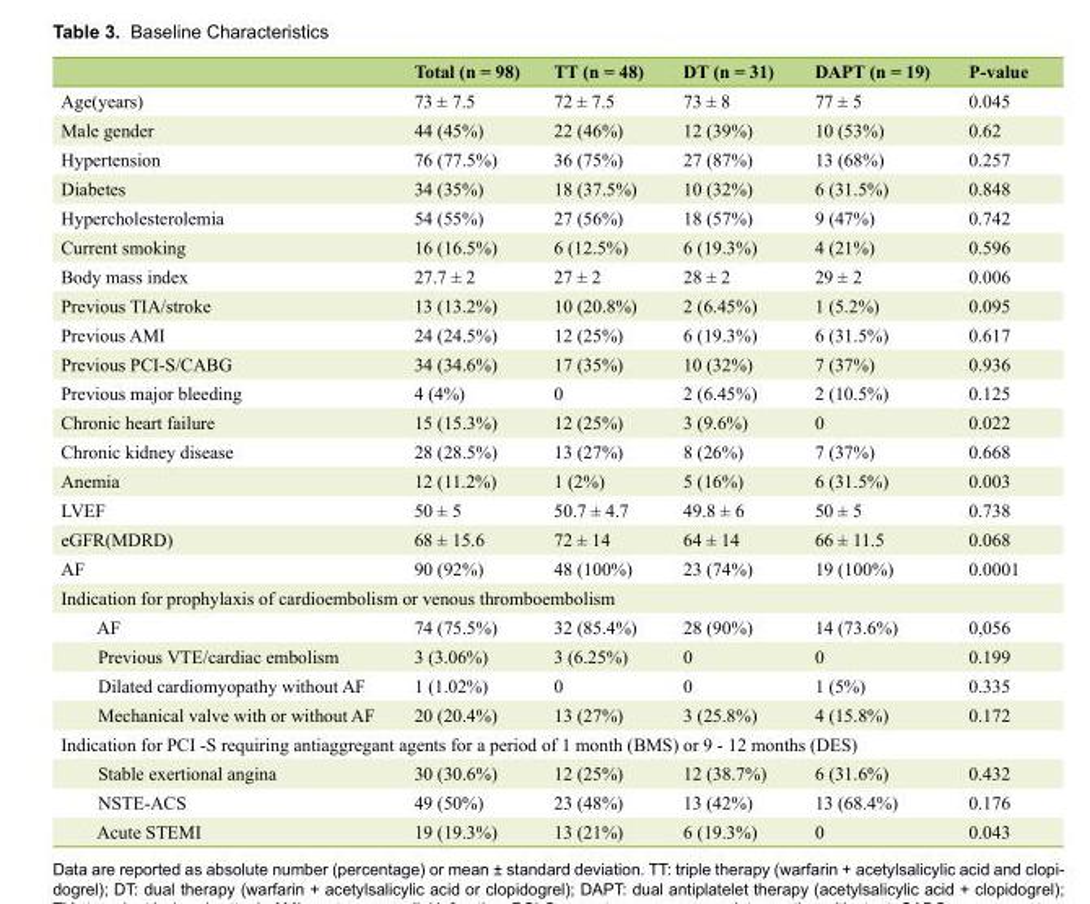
<table><thead><tr><td></td><td>Total (n = 98)</td><td>TT (n = 48)</td><td>DT (n = 31)</td><td>DAPT (n = 19)</td><td>P-value</td></tr></thead><tbody><tr><td>Age(years)</td><td>73 ± 7.5</td><td>72 ± 7.5</td><td>73 ± 8</td><td>77 ± 5</td><td>0.045</td></tr><tr><td>Male gender</td><td>44 (45%)</td><td>22 (46%)</td><td>12 (39%)</td><td>10 (53%)</td><td>0.62</td></tr><tr><td>Hypertension</td><td>76 (77.5%)</td><td>36 (75%)</td><td>27 (87%)</td><td>13 (68%)</td><td>0.257</td></tr><tr><td>Diabetes</td><td>34 (35%)</td><td>18 (37.5%)</td><td>10 (32%)</td><td>6 (31.5%)</td><td>0.848</td></tr><tr><td>Hypercholesterolemia</td><td>54 (55%)</td><td>27 (56%)</td><td>18 (57%)</td><td>9 (47%)</td><td>0.742</td></tr><tr><td>Current smoking</td><td>16 (16.5%)</td><td>6 (12.5%)</td><td>6 (19.3%)</td><td>4 (21%)</td><td>0.596</td></tr><tr><td>Body mass index</td><td>27.7 ± 2</td><td>27 ± 2</td><td>28 ± 2</td><td>29 ± 2</td><td>0.006</td></tr><tr><td>Previous TIA/stroke</td><td>13 (13.2%)</td><td>10 (20.8%)</td><td>2 (6.45%)</td><td>1 (5.2%)</td><td>0.095</td></tr><tr><td>Previous AMI</td><td>24 (24.5%)</td><td>12 (25%)</td><td>6 (19.3%)</td><td>6 (31.5%)</td><td>0.617</td></tr><tr><td>Previous PCI-S/CABG</td><td>34 (34.6%)</td><td>17 (35%)</td><td>10 (32%)</td><td>7 (37%)</td><td>0.936</td></tr><tr><td>Previous major bleeding</td><td>4 (4%)</td><td>0</td><td>2 (6.45%)</td><td>2 (10.5%)</td><td>0.125</td></tr><tr><td>Chronic heart failure</td><td>15 (15.3%)</td><td>12 (25%)</td><td>3 (9.6%)</td><td>0</td><td>0.022</td></tr><tr><td>Chronic kidney disease</td><td>28 (28.5%)</td><td>13 (27%)</td><td>8 (26%)</td><td>7 (37%)</td><td>0.668</td></tr><tr><td>Anemia</td><td>12 (11.2%)</td><td>1 (2%)</td><td>5 (16%)</td><td>6 (31.5%)</td><td>0.003</td></tr><tr><td>LVEF</td><td>50 ± 5</td><td>50.7 ± 4.7</td><td>49.8 ± 6</td><td>50 ± 5</td><td>0.738</td></tr><tr><td>eGFR(MDRD)</td><td>68 ± 15.6</td><td>72 ± 14</td><td>64 ± 14</td><td>66 ± 11.5</td><td>0.068</td></tr><tr><td>AF</td><td>90 (92%)</td><td>48 (100%)</td><td>23 (74%)</td><td>19 (100%)</td><td>0.0001</td></tr><tr><td colspan="6">Indication for prophylaxis of cardioembolism or venous thromboembolism</td></tr><tr><td>AF</td><td>74 (75.5%)</td><td>32 (85.4%)</td><td>28 (90%)</td><td>14 (73.6%)</td><td>0,056</td></tr><tr><td>Previous VTE/cardiac embolism</td><td>3 (3.06%)</td><td>3 (6.25%)</td><td>0</td><td>0</td><td>0.199</td></tr><tr><td>Dilated cardiomyopathy without AF</td><td>1 (1.02%)</td><td>0</td><td>0</td><td>1 (5%)</td><td>0.335</td></tr><tr><td>Mechanical valve with or without AF</td><td>20 (20.4%)</td><td>13 (27%)</td><td>3 (25.8%)</td><td>4 (15.8%)</td><td>0.172</td></tr><tr><td colspan="6">Indication for PCI -S requiring antiaggregant agents for a period of 1 month (BMS) or 9 - 12 months (DES)</td></tr><tr><td>Stable exertional angina</td><td>30 (30.6%)</td><td>12 (25%)</td><td>12 (38.7%)</td><td>6 (31.6%)</td><td>0.432</td></tr><tr><td>NSTE-ACS</td><td>49 (50%)</td><td>23 (48%)</td><td>13 (42%)</td><td>13 (68.4%)</td><td>0.176</td></tr><tr><td>Acute STEMI</td><td>19 (19.3%)</td><td>13 (21%)</td><td>6 (19.3%)</td><td>0</td><td>0.043</td></tr></tbody></table>